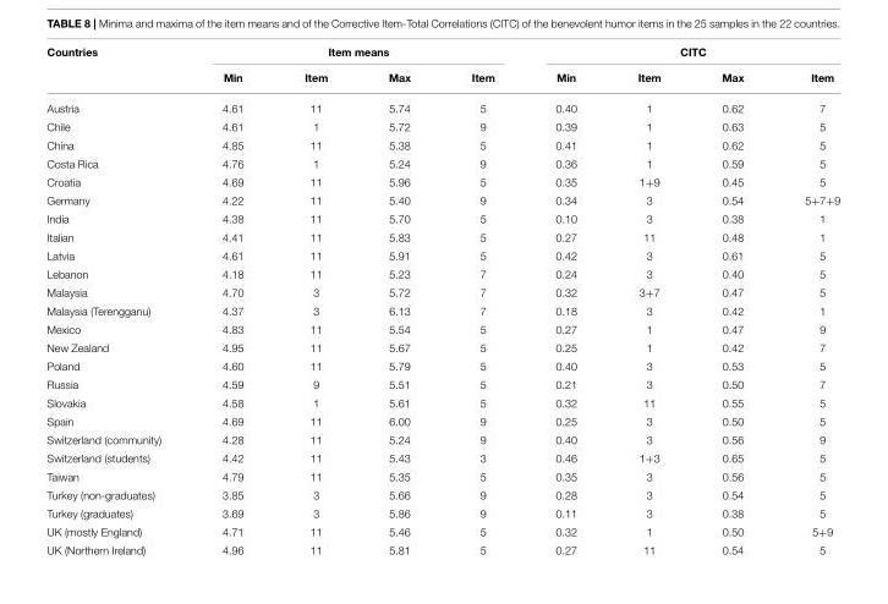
<table><thead><tr><td rowspan="2">Countries</td><td colspan="4">Item means</td><td colspan="4">CITC</td></tr><tr><td>Min</td><td>Item</td><td>Max</td><td>Item</td><td>Min</td><td>Item</td><td>Max</td><td>Item</td></tr></thead><tbody><tr><td>Austria</td><td>4.61</td><td>11</td><td>5.74</td><td>5</td><td>0.40</td><td>1</td><td>0.62</td><td>7</td></tr><tr><td>Chile</td><td>4.61</td><td>1</td><td>5.72</td><td>9</td><td>0.39</td><td>1</td><td>0.63</td><td>5</td></tr><tr><td>China</td><td>4.85</td><td>11</td><td>5.38</td><td>5</td><td>0.41</td><td>1</td><td>0.62</td><td>5</td></tr><tr><td>Costa Rica</td><td>4.76</td><td>1</td><td>5.24</td><td>9</td><td>0.36</td><td>1</td><td>0.59</td><td>5</td></tr><tr><td>Croatia</td><td>4.69</td><td>11</td><td>5.96</td><td>5</td><td>0.35</td><td>1+9</td><td>0.45</td><td>5</td></tr><tr><td>Germany</td><td>4.22</td><td>11</td><td>5.40</td><td>9</td><td>0.34</td><td>3</td><td>0.54</td><td>5+7+9</td></tr><tr><td>India</td><td>4.38</td><td>11</td><td>5.70</td><td>5</td><td>0.10</td><td>3</td><td>0.38</td><td>1</td></tr><tr><td>Italian</td><td>4.41</td><td>11</td><td>5.83</td><td>5</td><td>0.27</td><td>11</td><td>0.48</td><td>1</td></tr><tr><td>Latvia</td><td>4.61</td><td>11</td><td>5.91</td><td>5</td><td>0.42</td><td>3</td><td>0.61</td><td>5</td></tr><tr><td>Lebanon</td><td>4.18</td><td>11</td><td>5.23</td><td>7</td><td>0.24</td><td>3</td><td>0.40</td><td>5</td></tr><tr><td>Malaysia</td><td>4.70</td><td>3</td><td>5.72</td><td>7</td><td>0.32</td><td>3+7</td><td>0.47</td><td>5</td></tr><tr><td>Malaysia (Terengganu)</td><td>4.37</td><td>3</td><td>6.13</td><td>7</td><td>0.18</td><td>3</td><td>0.42</td><td>1</td></tr><tr><td>Mexico</td><td>4.83</td><td>11</td><td>5.54</td><td>5</td><td>0.27</td><td>1</td><td>0.47</td><td>9</td></tr><tr><td>New Zealand</td><td>4.95</td><td>11</td><td>5.67</td><td>5</td><td>0.25</td><td>1</td><td>0.42</td><td>7</td></tr><tr><td>Poland</td><td>4.60</td><td>11</td><td>5.79</td><td>5</td><td>0.40</td><td>3</td><td>0.53</td><td>5</td></tr><tr><td>Russia</td><td>4.59</td><td>9</td><td>5.51</td><td>5</td><td>0.21</td><td>3</td><td>0.50</td><td>7</td></tr><tr><td>Slovakia</td><td>4.58</td><td>1</td><td>5.61</td><td>5</td><td>0.32</td><td>11</td><td>0.55</td><td>5</td></tr><tr><td>Spain</td><td>4.69</td><td>11</td><td>6.00</td><td>9</td><td>0.25</td><td>3</td><td>0.50</td><td>5</td></tr><tr><td>Switzerland (community)</td><td>4.28</td><td>11</td><td>5.24</td><td>9</td><td>0.40</td><td>3</td><td>0.56</td><td>9</td></tr><tr><td>Switzerland (students)</td><td>4.42</td><td>11</td><td>5.43</td><td>3</td><td>0.46</td><td>1+3</td><td>0.65</td><td>5</td></tr><tr><td>Taiwan</td><td>4.79</td><td>11</td><td>5.35</td><td>5</td><td>0.35</td><td>3</td><td>0.56</td><td>5</td></tr><tr><td>Turkey (non-graduates)</td><td>3.85</td><td>3</td><td>5.66</td><td>9</td><td>0.28</td><td>3</td><td>0.54</td><td>5</td></tr><tr><td>Turkey (graduates)</td><td>3.69</td><td>3</td><td>5.86</td><td>9</td><td>0.11</td><td>3</td><td>0.38</td><td>5</td></tr><tr><td>UK (mostly England)</td><td>4.71</td><td>11</td><td>5.46</td><td>5</td><td>0.32</td><td>1</td><td>0.50</td><td>5+9</td></tr><tr><td>UK (Northern Ireland)</td><td>4.96</td><td>11</td><td>5.81</td><td>5</td><td>0.27</td><td>11</td><td>0.54</td><td>5</td></tr></tbody></table>